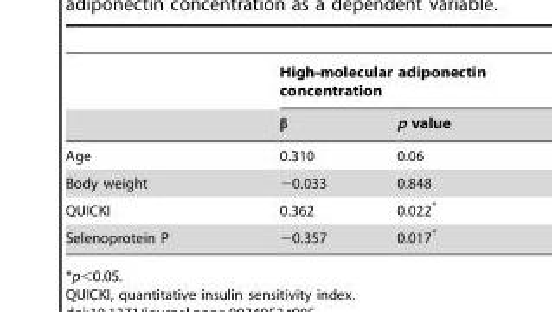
<table><thead><tr><td rowspan="2"></td><td colspan="2">High-molecular adiponectin concentration</td></tr><tr><td>β</td><td>p value</td></tr></thead><tbody><tr><td>Age</td><td>0.310</td><td>0.06</td></tr><tr><td>Body weight</td><td>−0.033</td><td>0.848</td></tr><tr><td>QUICKI</td><td>0.362</td><td>0.022*</td></tr><tr><td>Selenoprotein P</td><td>−0.357</td><td>0.017*</td></tr></tbody></table>